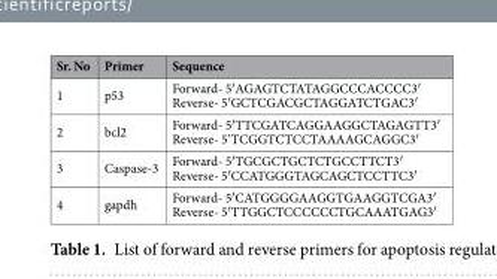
<table><thead><tr><td>Sr. No</td><td>Primer</td><td>Sequence</td></tr></thead><tbody><tr><td>1</td><td>p53</td><td>Forward- 5′AGAGTCTATAGGCCCACCCC3′ Reverse- 5′GCTCGACGCTAGGATCTGAC3′</td></tr><tr><td>2</td><td>bcl2</td><td>Forward- 5′TTCGATCAGGAAGGCTAGAGTT3′ Reverse- 5’TCGGTCTCCTAAAAGCAGGC3′</td></tr><tr><td>3</td><td>Caspase-3</td><td>Forward- 5′TGCGCTGCTCTGCCTTCT3′ Reverse- 5′CCATGGGTAGCAGCTCCTTC3′</td></tr><tr><td>4</td><td>gapdh</td><td>Forward- 5′CATGGGGAAGGTGAAGGTCGA3′ Reverse- 5′TTGGCTCCCCCCTGCAAATGAG3′</td></tr></tbody></table>